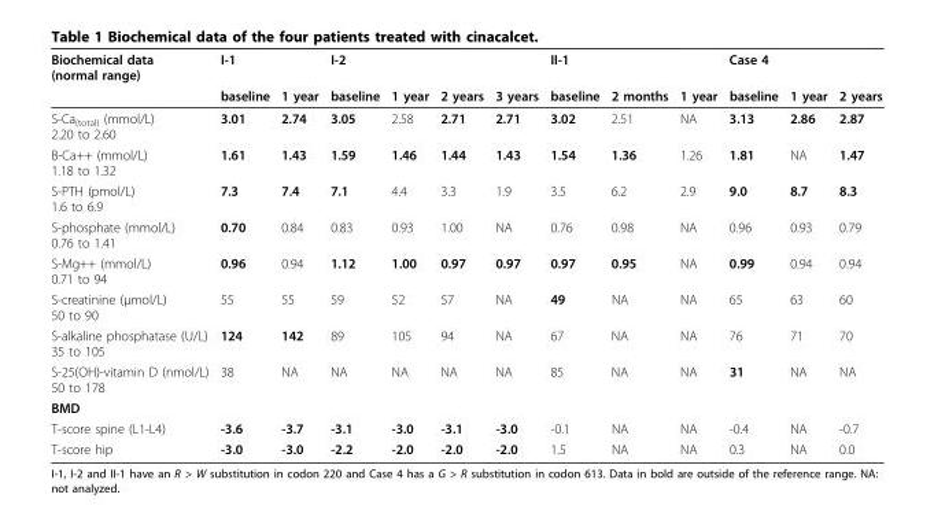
<table><thead><tr><td rowspan="2">Biochemical data (normal range)</td><td colspan="2">I-1</td><td colspan="4">I-2</td><td colspan="3">II-1</td><td colspan="3">Case 4</td></tr><tr><td>baseline</td><td>1 year</td><td>baseline</td><td>1 year</td><td>2 years</td><td>3 years</td><td>baseline</td><td>2 months</td><td>1 year</td><td>baseline</td><td>1 year</td><td>2 years</td></tr></thead><tbody><tr><td>S-Ca<sub>(total)</sub> (mmol/L) 2.20 to 2.60</td><td>3.01</td><td>2.74</td><td>3.05</td><td>2.58</td><td>2.71</td><td>2.71</td><td>3.02</td><td>2.51</td><td>NA</td><td>3.13</td><td>2.86</td><td>2.87</td></tr><tr><td>B-Ca++ (mmol/L) 1.18 to 1.32</td><td>1.61</td><td>1.43</td><td>1.59</td><td>1.46</td><td>1.44</td><td>1.43</td><td>1.54</td><td>1.36</td><td>1.26</td><td>1.81</td><td>NA</td><td>1.47</td></tr><tr><td>S-PTH (pmol/L) 1.6 to 6.9</td><td>7.3</td><td>7.4</td><td>7.1</td><td>4.4</td><td>3.3</td><td>1.9</td><td>3.5</td><td>6.2</td><td>2.9</td><td>9.0</td><td>8.7</td><td>8.3</td></tr><tr><td>S-phosphate (mmol/L) 0.76 to 1.41</td><td>0.70</td><td>0.84</td><td>0.83</td><td>0.93</td><td>1.00</td><td>NA</td><td>0.76</td><td>0.98</td><td>NA</td><td>0.96</td><td>0.93</td><td>0.79</td></tr><tr><td>S-Mg++ (mmol/L) 0.71 to 94</td><td>0.96</td><td>0.94</td><td>1.12</td><td>1.00</td><td>0.97</td><td>0.97</td><td>0.97</td><td>0.95</td><td>NA</td><td>0.99</td><td>0.94</td><td>0.94</td></tr><tr><td>S-creatinine (μmol/L) 50 to 90</td><td>55</td><td>55</td><td>59</td><td>52</td><td>57</td><td>NA</td><td>49</td><td>NA</td><td>NA</td><td>65</td><td>63</td><td>60</td></tr><tr><td>S-alkaline phosphatase (U/L) 35 to 105</td><td>124</td><td>142</td><td>89</td><td>105</td><td>94</td><td>NA</td><td>67</td><td>NA</td><td>NA</td><td>76</td><td>71</td><td>70</td></tr><tr><td>S-25(OH)-vitamin D (nmol/L) 50 to 178</td><td>38</td><td>NA</td><td>NA</td><td>NA</td><td>NA</td><td>NA</td><td>85</td><td>NA</td><td>NA</td><td>31</td><td>NA</td><td>NA</td></tr><tr><td colspan="13">BMD</td></tr><tr><td>T-score spine (L1-L4)</td><td>-3.6</td><td>-3.7</td><td>-3.1</td><td>-3.0</td><td>-3.1</td><td>-3.0</td><td>-0.1</td><td>NA</td><td>NA</td><td>-0.4</td><td>NA</td><td>-0.7</td></tr><tr><td>T-score hip</td><td>-3.0</td><td>-3.0</td><td>-2.2</td><td>-2.0</td><td>-2.0</td><td>-2.0</td><td>1.5</td><td>NA</td><td>NA</td><td>0.3</td><td>NA</td><td>0.0</td></tr></tbody></table>